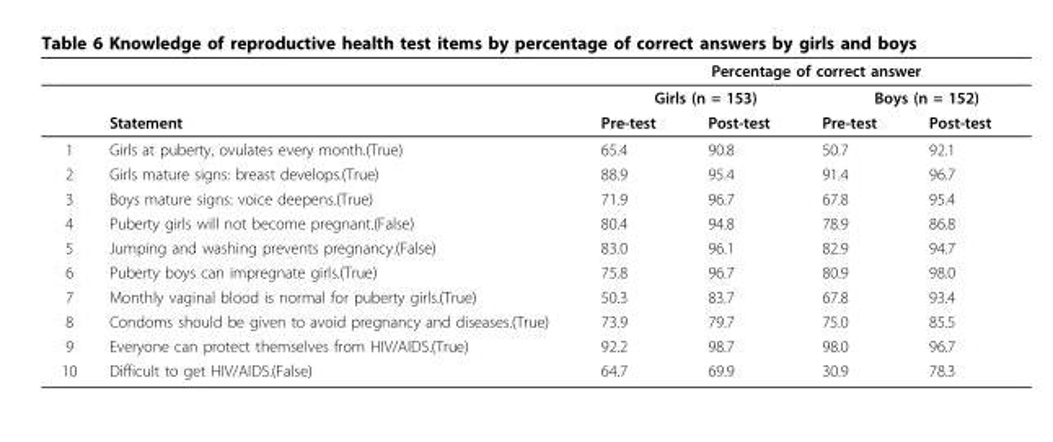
<table><thead><tr><td rowspan="3"></td><td rowspan="3">Statement</td><td colspan="4">Percentage of correct answer</td></tr><tr><td colspan="2">Girls (n = 153)</td><td colspan="2">Boys (n = 152)</td></tr><tr><td>Pre-test</td><td>Post-test</td><td>Pre-test</td><td>Post-test</td></tr></thead><tbody><tr><td>1</td><td>Girls at puberty, ovulates every month.(True)</td><td>65.4</td><td>90.8</td><td>50.7</td><td>92.1</td></tr><tr><td>2</td><td>Girls mature signs: breast develops.(True)</td><td>88.9</td><td>95.4</td><td>91.4</td><td>96.7</td></tr><tr><td>3</td><td>Boys mature signs: voice deepens.(True)</td><td>71.9</td><td>96.7</td><td>67.8</td><td>95.4</td></tr><tr><td>4</td><td>Puberty girls will not become pregnant.(False)</td><td>80.4</td><td>94.8</td><td>78.9</td><td>86.8</td></tr><tr><td>5</td><td>Jumping and washing prevents pregnancy.(False)</td><td>83.0</td><td>96.1</td><td>82.9</td><td>94.7</td></tr><tr><td>6</td><td>Puberty boys can impregnate girls.(True)</td><td>75.8</td><td>96.7</td><td>80.9</td><td>98.0</td></tr><tr><td>7</td><td>Monthly vaginal blood is normal for puberty girls.(True)</td><td>50.3</td><td>83.7</td><td>67.8</td><td>93.4</td></tr><tr><td>8</td><td>Condoms should be given to avoid pregnancy and diseases.(True)</td><td>73.9</td><td>79.7</td><td>75.0</td><td>85.5</td></tr><tr><td>9</td><td>Everyone can protect themselves from HIV/AIDS.(True)</td><td>92.2</td><td>98.7</td><td>98.0</td><td>96.7</td></tr><tr><td>10</td><td>Difficult to get HIV/AIDS.(False)</td><td>64.7</td><td>69.9</td><td>30.9</td><td>78.3</td></tr></tbody></table>